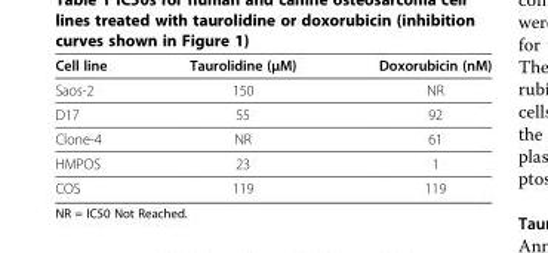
<table><thead><tr><td>Cell line</td><td>Taurolidine (μM)</td><td>Doxorubicin (nM)</td></tr></thead><tbody><tr><td>Saos-2</td><td>150</td><td>NR</td></tr><tr><td>D17</td><td>55</td><td>92</td></tr><tr><td>Clone-4</td><td>NR</td><td>61</td></tr><tr><td>HMPOS</td><td>23</td><td>1</td></tr><tr><td>COS</td><td>119</td><td>119</td></tr></tbody></table>